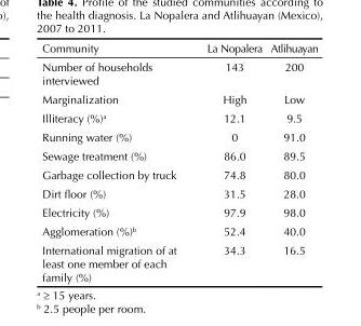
<table><thead><tr><td>Community</td><td>La Nopalera</td><td>Atlihuayan</td></tr></thead><tbody><tr><td>Number of households interviewed</td><td>143</td><td>200</td></tr><tr><td>Marginalization</td><td>High</td><td>Low</td></tr><tr><td>Illiteracy (%)<sup>a</sup></td><td>12.1</td><td>9.5</td></tr><tr><td>Running water (%)</td><td>0</td><td>91.0</td></tr><tr><td>Sewage treatment (%)</td><td>86.0</td><td>89.5</td></tr><tr><td>Garbage collection by truck</td><td>74.8</td><td>80.0</td></tr><tr><td>Dirt floor (%)</td><td>31.5</td><td>28.0</td></tr><tr><td>Electricity (%)</td><td>97.9</td><td>98.0</td></tr><tr><td>Agglomeration (%)<sup>b</sup></td><td>52.4</td><td>40.0</td></tr><tr><td>International migration of at least one member of each family (%)</td><td>34.3</td><td>16.5</td></tr></tbody></table>